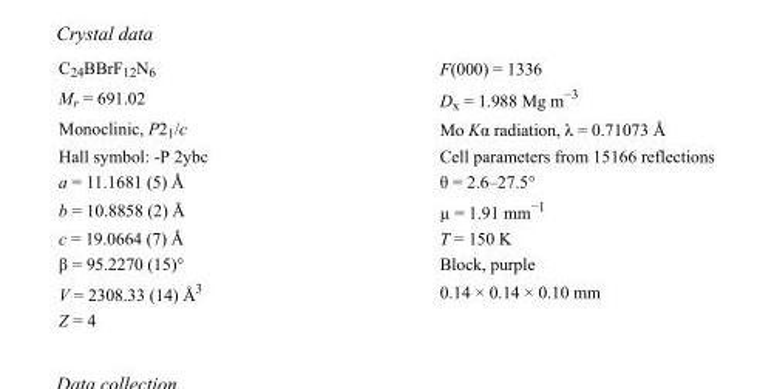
<table><tbody><tr><td>C<sub>24</sub>BBrF<sub>12</sub>N<sub>6</sub></td><td>F(000) = 1336</td></tr><tr><td>M<sub>r</sub> = 691.02</td><td>D<sub>x</sub> = 1.988 Mg m<sup>−3</sup></td></tr><tr><td>Monoclinic, P2<sub>1</sub>/c</td><td>Mo Kα radiation, λ = 0.71073 Å</td></tr><tr><td>Hall symbol: -P 2ybc</td><td>Cell parameters from 15166 reflections</td></tr><tr><td>a = 11.1681 (5) Å</td><td>θ = 2.6–27.5°</td></tr><tr><td>b = 10.8858 (2) Å</td><td>µ = 1.91 mm<sup>−1</sup></td></tr><tr><td>c = 19.0664 (7) Å</td><td>T = 150 K</td></tr><tr><td>β = 95.2270 (15)°</td><td>Block, purple</td></tr><tr><td>V = 2308.33 (14) Å<sup>3</sup></td><td>0.14 × 0.14 × 0.10 mm</td></tr><tr><td>Z = 4</td><td></td></tr></tbody></table>